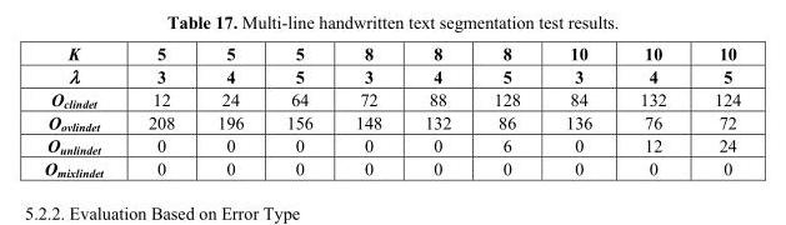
<table><thead><tr><td rowspan="2">K λ</td><td rowspan="2">5 3</td><td rowspan="2">5 4</td><td rowspan="2">5 5</td><td rowspan="2">8 3</td><td rowspan="2">8 4</td><td rowspan="2">8 5</td><td rowspan="2">10 3</td><td rowspan="2">10 4</td><td rowspan="2">10 5</td></tr><tr></tr></thead><tbody><tr><td>O<sub>clindet</sub></td><td>12</td><td>24</td><td>64</td><td>72</td><td>88</td><td>128</td><td>84</td><td>132</td><td>124</td></tr><tr><td>O<sub>ovlindet</sub></td><td>208</td><td>196</td><td>156</td><td>148</td><td>132</td><td>86</td><td>136</td><td>76</td><td>72</td></tr><tr><td>O<sub>unlindet</sub></td><td>0</td><td>0</td><td>0</td><td>0</td><td>0</td><td>6</td><td>0</td><td>12</td><td>24</td></tr><tr><td>O<sub>mixlindet</sub></td><td>0</td><td>0</td><td>0</td><td>0</td><td>0</td><td>0</td><td>0</td><td>0</td><td>0</td></tr></tbody></table>